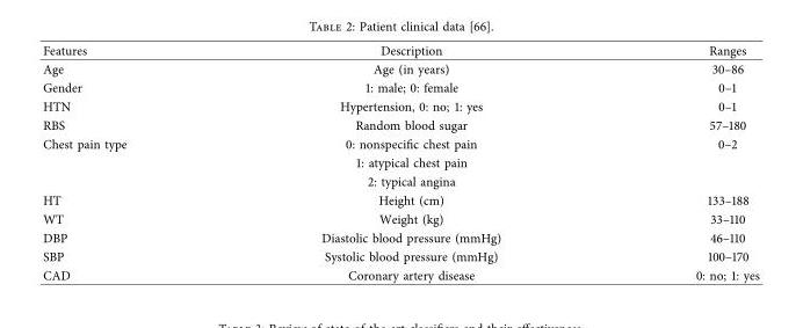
<table><thead><tr><td>Features</td><td>Description</td><td>Ranges</td></tr></thead><tbody><tr><td>Age</td><td>Age (in years)</td><td>30–86</td></tr><tr><td>Gender</td><td>1: male; 0: female</td><td>0–1</td></tr><tr><td>HTN</td><td>Hypertension, 0: no; 1: yes</td><td>0–1</td></tr><tr><td>RBS</td><td>Random blood sugar</td><td>57–180</td></tr><tr><td rowspan="3">Chest pain type</td><td>0: nonspecifc chest pain</td><td>0–2</td></tr><tr><td>1: atypical chest pain</td><td></td></tr><tr><td>2: typical angina</td><td></td></tr><tr><td>HT</td><td>Height (cm)</td><td>133–188</td></tr><tr><td>WT</td><td>Weight (kg)</td><td>33–110</td></tr><tr><td>DBP</td><td>Diastolic blood pressure (mmHg)</td><td>46–110</td></tr><tr><td>SBP</td><td>Systolic blood pressure (mmHg)</td><td>100–170</td></tr><tr><td>CAD</td><td>Coronary artery disease</td><td>0: no; 1: yes</td></tr></tbody></table>